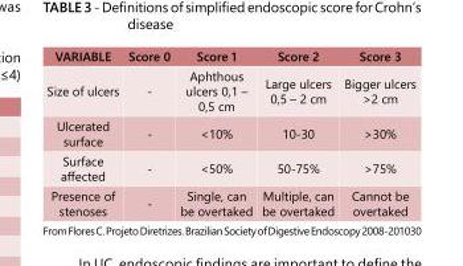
<table><tbody><tr><td>VARIABLE</td><td>Score 0</td><td>Score 1</td><td>Score 2</td><td>Score 3</td></tr><tr><td>Size of ulcers</td><td>-</td><td>Aphthous ulcers 0,1 – 0,5 cm</td><td>Large ulcers 0,5 – 2 cm</td><td>Bigger ulcers &gt;2 cm</td></tr><tr><td>Ulcerated surface</td><td>-</td><td>&lt;10%</td><td>10-30</td><td>&gt;30%</td></tr><tr><td>Surface affected</td><td>-</td><td>&lt;50%</td><td>50-75%</td><td>&gt;75%</td></tr><tr><td>Presence of stenoses</td><td>-</td><td>Single, can be overtaked</td><td>Multiple, can be overtaked</td><td>Cannot be overtaked</td></tr></tbody></table>